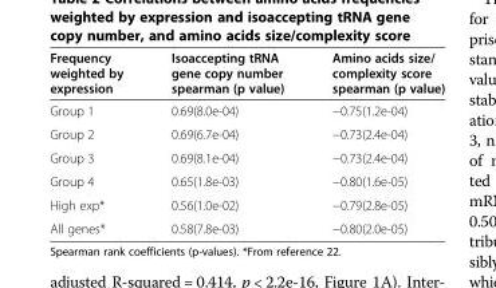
<table><thead><tr><td>Frequency weighted by expression</td><td>Isoaccepting tRNA gene copy number spearman (p value)</td><td>Amino acids size/ complexity score spearman (p value)</td></tr></thead><tbody><tr><td>Group 1</td><td>0.69(8.0e-04)</td><td>−0.75(1.2e-04)</td></tr><tr><td>Group 2</td><td>0.69(6.7e-04)</td><td>−0.73(2.4e-04)</td></tr><tr><td>Group 3</td><td>0.69(8.1e-04)</td><td>−0.73(2.4e-04)</td></tr><tr><td>Group 4</td><td>0.65(1.8e-03)</td><td>−0.80(1.6e-05)</td></tr><tr><td>High exp*</td><td>0.56(1.0e-02)</td><td>−0.79(2.8e-05)</td></tr><tr><td>All genes*</td><td>0.58(7.8e-03)</td><td>−0.80(2.0e-05)</td></tr></tbody></table>